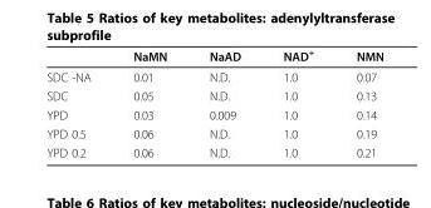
<table><thead><tr><td></td><td>NaMN</td><td>NaAD</td><td>NAD<sup>+</sup></td><td>NMN</td></tr></thead><tbody><tr><td>SDC -NA</td><td>0.01</td><td>N.D.</td><td>1.0</td><td>0.07</td></tr><tr><td>SDC</td><td>0.05</td><td>N.D.</td><td>1.0</td><td>0.13</td></tr><tr><td>YPD</td><td>0.03</td><td>0.009</td><td>1.0</td><td>0.14</td></tr><tr><td>YPD 0.5</td><td>0.06</td><td>N.D.</td><td>1.0</td><td>0.19</td></tr><tr><td>YPD 0.2</td><td>0.06</td><td>N.D.</td><td>1.0</td><td>0.21</td></tr></tbody></table>